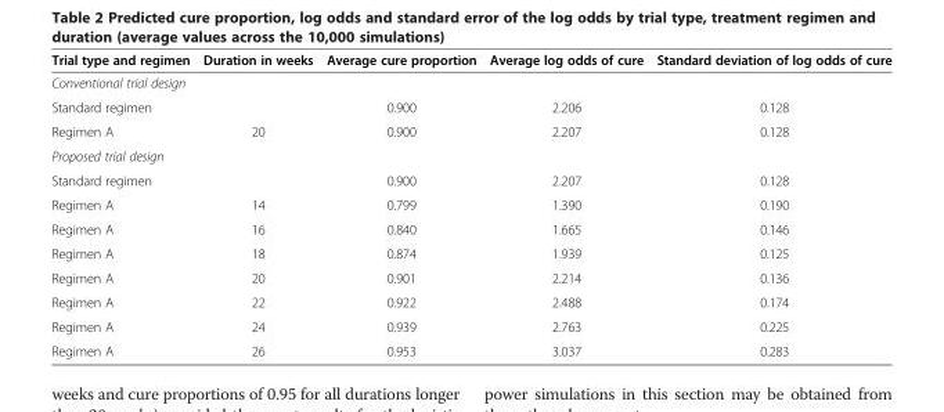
<table><thead><tr><td>Trial type and regimen</td><td>Duration in weeks</td><td>Average cure proportion</td><td>Average log odds of cure</td><td>Standard deviation of log odds of cure</td></tr></thead><tbody><tr><td colspan="5">Conventional trial design</td></tr><tr><td>Standard regimen</td><td></td><td>0.900</td><td>2.206</td><td>0.128</td></tr><tr><td>Regimen A</td><td>20</td><td>0.900</td><td>2.207</td><td>0.128</td></tr><tr><td colspan="5">Proposed trial design</td></tr><tr><td>Standard regimen</td><td></td><td>0.900</td><td>2.207</td><td>0.128</td></tr><tr><td>Regimen A</td><td>14</td><td>0.799</td><td>1.390</td><td>0.190</td></tr><tr><td>Regimen A</td><td>16</td><td>0.840</td><td>1.665</td><td>0.146</td></tr><tr><td>Regimen A</td><td>18</td><td>0.874</td><td>1.939</td><td>0.125</td></tr><tr><td>Regimen A</td><td>20</td><td>0.901</td><td>2.214</td><td>0.136</td></tr><tr><td>Regimen A</td><td>22</td><td>0.922</td><td>2.488</td><td>0.174</td></tr><tr><td>Regimen A</td><td>24</td><td>0.939</td><td>2.763</td><td>0.225</td></tr><tr><td>Regimen A</td><td>26</td><td>0.953</td><td>3.037</td><td>0.283</td></tr></tbody></table>